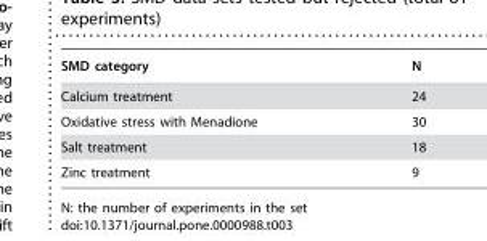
<table><thead><tr><td>SMD category</td><td>N</td></tr></thead><tbody><tr><td>Calcium treatment</td><td>24</td></tr><tr><td>Oxidative stress with Menadione</td><td>30</td></tr><tr><td>Salt treatment</td><td>18</td></tr><tr><td>Zinc treatment</td><td>9</td></tr></tbody></table>